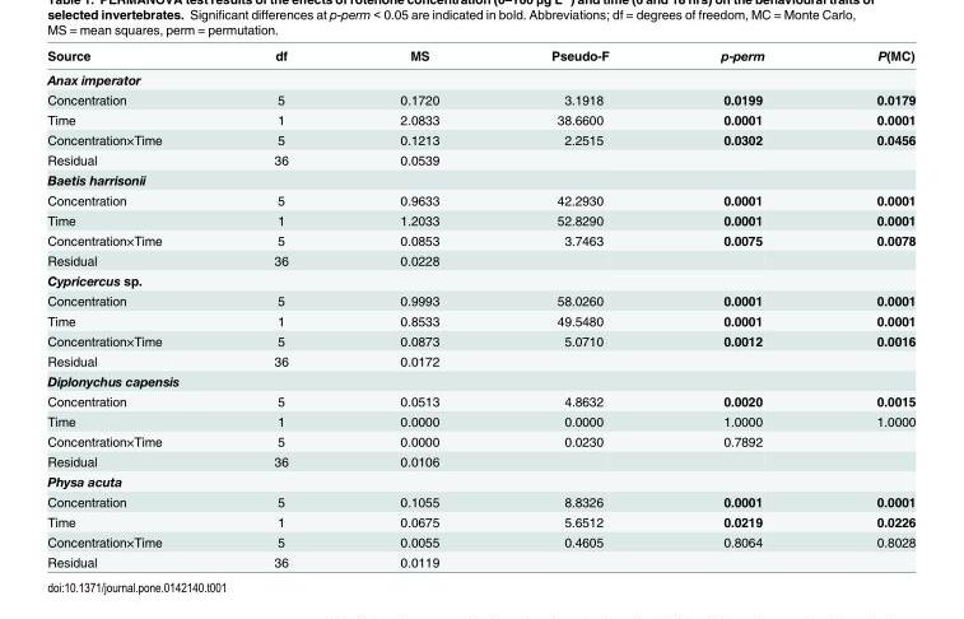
<table><thead><tr><td>Source</td><td>df</td><td>MS</td><td>Pseudo-F</td><td>p-perm</td><td>P(MC)</td></tr></thead><tbody><tr><td colspan="6">Anax imperator</td></tr><tr><td>Concentration</td><td>5</td><td>0.1720</td><td>3.1918</td><td>0.0199</td><td>0.0179</td></tr><tr><td>Time</td><td>1</td><td>2.0833</td><td>38.6600</td><td>0.0001</td><td>0.0001</td></tr><tr><td>Concentration×Time</td><td>5</td><td>0.1213</td><td>2.2515</td><td>0.0302</td><td>0.0456</td></tr><tr><td>Residual</td><td>36</td><td>0.0539</td><td></td><td></td><td></td></tr><tr><td colspan="6">Baetis harrisonii</td></tr><tr><td>Concentration</td><td>5</td><td>0.9633</td><td>42.2930</td><td>0.0001</td><td>0.0001</td></tr><tr><td>Time</td><td>1</td><td>1.2033</td><td>52.8290</td><td>0.0001</td><td>0.0001</td></tr><tr><td>Concentration×Time</td><td>5</td><td>0.0853</td><td>3.7463</td><td>0.0075</td><td>0.0078</td></tr><tr><td>Residual</td><td>36</td><td>0.0228</td><td></td><td></td><td></td></tr><tr><td colspan="6">Cypricercus sp.</td></tr><tr><td>Concentration</td><td>5</td><td>0.9993</td><td>58.0260</td><td>0.0001</td><td>0.0001</td></tr><tr><td>Time</td><td>1</td><td>0.8533</td><td>49.5480</td><td>0.0001</td><td>0.0001</td></tr><tr><td>Concentration×Time</td><td>5</td><td>0.0873</td><td>5.0710</td><td>0.0012</td><td>0.0016</td></tr><tr><td>Residual</td><td>36</td><td>0.0172</td><td></td><td></td><td></td></tr><tr><td colspan="6">Diplonychus capensis</td></tr><tr><td>Concentration</td><td>5</td><td>0.0513</td><td>4.8632</td><td>0.0020</td><td>0.0015</td></tr><tr><td>Time</td><td>1</td><td>0.0000</td><td>0.0000</td><td>1.0000</td><td>1.0000</td></tr><tr><td>Concentration×Time</td><td>5</td><td>0.0000</td><td>0.0230</td><td>0.7892</td><td></td></tr><tr><td>Residual</td><td>36</td><td>0.0106</td><td></td><td></td><td></td></tr><tr><td colspan="6">Physa acuta</td></tr><tr><td>Concentration</td><td>5</td><td>0.1055</td><td>8.8326</td><td>0.0001</td><td>0.0001</td></tr><tr><td>Time</td><td>1</td><td>0.0675</td><td>5.6512</td><td>0.0219</td><td>0.0226</td></tr><tr><td>Concentration×Time</td><td>5</td><td>0.0055</td><td>0.4605</td><td>0.8064</td><td>0.8028</td></tr><tr><td>Residual</td><td>36</td><td>0.0119</td><td></td><td></td><td></td></tr></tbody></table>